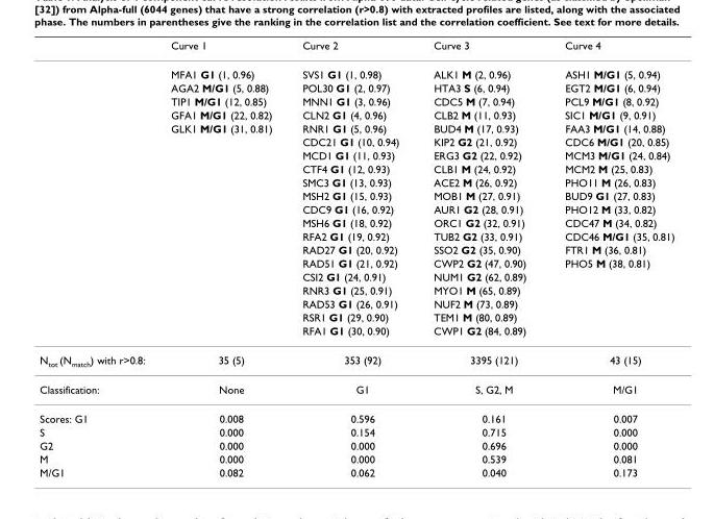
<table><thead><tr><td></td><td>Curve 1</td><td>Curve 2</td><td>Curve 3</td><td>Curve 4</td></tr></thead><tbody><tr><td></td><td>MFA1 G1 (1, 0.96)</td><td>SVS1 G1 (1, 0.98)</td><td>ALK1 M (2, 0.96)</td><td>ASH1 M/G1 (5, 0.94)</td></tr><tr><td></td><td>AGA2 M/G1 (5, 0.88)</td><td>POL30 G1 (2, 0.97)</td><td>HTA3 S (6, 0.94)</td><td>EGT2 M/G1 (6, 0.94)</td></tr><tr><td></td><td>TIP1 M/G1 (12, 0.85)</td><td>MNN1 G1 (3, 0.96)</td><td>CDC5 M (7, 0.94)</td><td>PCL9 M/G1 (8, 0.92)</td></tr><tr><td></td><td>GFA1 M/G1 (22, 0.82)</td><td>CLN2 G1 (4, 0.96)</td><td>CLB2 M (11, 0.93)</td><td>SIC1 M/G1 (9, 0.91)</td></tr><tr><td></td><td>GLK1 M/G1 (31, 0.81)</td><td>RNR1 G1 (5, 0.96)</td><td>BUD4 M (17, 0.93)</td><td>FAA3 M/G1 (14, 0.88)</td></tr><tr><td></td><td></td><td>CDC21 G1 (10, 0.94)</td><td>KIP2 G2 (21, 0.92)</td><td>CDC6 M/G1 (20, 0.85)</td></tr><tr><td></td><td></td><td>MCD1 G1 (11, 0.93)</td><td>ERG3 G2 (22, 0.92)</td><td>MCM3 M/G1 (24, 0.84)</td></tr><tr><td></td><td></td><td>CTF4 G1 (12, 0.93)</td><td>CLB1 M (24, 0.92)</td><td>MCM2 M (25, 0.83)</td></tr><tr><td></td><td></td><td>SMC3 G1 (13, 0.93)</td><td>ACE2 M (26, 0.92)</td><td>PHO11 M (26, 0.83)</td></tr><tr><td></td><td></td><td>MSH2 G1 (15, 0.93)</td><td>MOB1 M (27, 0.91)</td><td>BUD9 G1 (27, 0.83)</td></tr><tr><td></td><td></td><td>CDC9 G1 (16, 0.92)</td><td>AUR1 G2 (28, 0.91)</td><td>PHO12 M (33, 0.82)</td></tr><tr><td></td><td></td><td>MSH6 G1 (18, 0.92)</td><td>ORC1 G2 (32, 0.91)</td><td>CDC47 M (34, 0.82)</td></tr><tr><td></td><td></td><td>RFA2 G1 (19, 0.92)</td><td>TUB2 G2 (33, 0.91)</td><td>CDC46 M/G1 (35, 0.81)</td></tr><tr><td></td><td></td><td>RAD27 G1 (20, 0.92)</td><td>SSO2 G2 (35, 0.90)</td><td>FTR1 M (36, 0.81)</td></tr><tr><td></td><td></td><td>RAD51 G1 (21, 0.92)</td><td>CWP2 G2 (47, 0.90)</td><td>PHO5 M (38, 0.81)</td></tr><tr><td></td><td></td><td>CSI2 G1 (24, 0.91)</td><td>NUM1 G2 (62, 0.89)</td><td></td></tr><tr><td></td><td></td><td>RNR3 G1 (25, 0.91)</td><td>MYO1 M (65, 0.89)</td><td></td></tr><tr><td></td><td></td><td>RAD53 G1 (26, 0.91)</td><td>NUF2 M (73, 0.89)</td><td></td></tr><tr><td></td><td></td><td>RSR1 G1 (29, 0.90)</td><td>TEM1 M (80, 0.89)</td><td></td></tr><tr><td></td><td></td><td>RFA1 G1 (30, 0.90)</td><td>CWP1 G2 (84, 0.89)</td><td></td></tr><tr><td>Ntot (Nmatch) with r&gt;0.8:</td><td>35 (5)</td><td>353 (92)</td><td>3395 (121)</td><td>43 (15)</td></tr><tr><td>Classification:</td><td>None</td><td>G1</td><td>S, G2, M</td><td>M/G1</td></tr><tr><td>Scores: G1</td><td>0.008</td><td>0.596</td><td>0.161</td><td>0.007</td></tr><tr><td>S</td><td>0.000</td><td>0.154</td><td>0.715</td><td>0.000</td></tr><tr><td>G2</td><td>0.000</td><td>0.000</td><td>0.696</td><td>0.000</td></tr><tr><td>M</td><td>0.000</td><td>0.000</td><td>0.539</td><td>0.081</td></tr><tr><td>M/G1</td><td>0.082</td><td>0.062</td><td>0.040</td><td>0.173</td></tr></tbody></table>